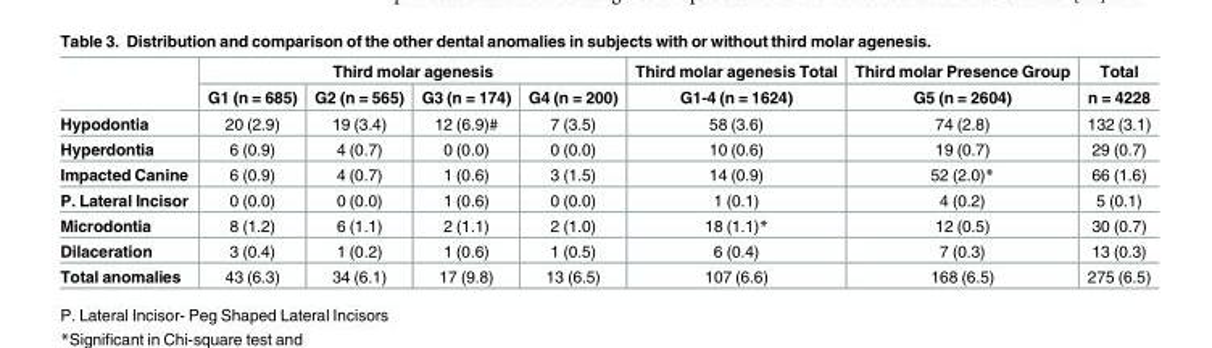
<table><thead><tr><td rowspan="2"></td><td colspan="4">Third molar agenesis</td><td rowspan="2">Third molar agenesis Total G1-4 (n = 1624)</td><td rowspan="2">Third molar Presence Group G5 (n = 2604)</td><td rowspan="2">Total n = 4228</td></tr><tr><td>G1 (n = 685)</td><td>G2 (n = 565)</td><td>G3 (n = 174)</td><td>G4 (n = 200)</td></tr></thead><tbody><tr><td>Hypodontia</td><td>20 (2.9)</td><td>19 (3.4)</td><td>12 (6.9)#</td><td>7 (3.5)</td><td>58 (3.6)</td><td>74 (2.8)</td><td>132 (3.1)</td></tr><tr><td>Hyperdontia</td><td>6 (0.9)</td><td>4 (0.7)</td><td>0 (0.0)</td><td>0 (0.0)</td><td>10 (0.6)</td><td>19 (0.7)</td><td>29 (0.7)</td></tr><tr><td>Impacted Canine</td><td>6 (0.9)</td><td>4 (0.7)</td><td>1 (0.6)</td><td>3 (1.5)</td><td>14 (0.9)</td><td>52 (2.0)*</td><td>66 (1.6)</td></tr><tr><td>P. Lateral Incisor</td><td>0 (0.0)</td><td>0 (0.0)</td><td>1 (0.6)</td><td>0 (0.0)</td><td>1 (0.1)</td><td>4 (0.2)</td><td>5 (0.1)</td></tr><tr><td>Microdontia</td><td>8 (1.2)</td><td>6 (1.1)</td><td>2 (1.1)</td><td>2 (1.0)</td><td>18 (1.1)*</td><td>12 (0.5)</td><td>30 (0.7)</td></tr><tr><td>Dilaceration</td><td>3 (0.4)</td><td>1 (0.2)</td><td>1 (0.6)</td><td>1 (0.5)</td><td>6 (0.4)</td><td>7 (0.3)</td><td>13 (0.3)</td></tr><tr><td>Total anomalies</td><td>43 (6.3)</td><td>34 (6.1)</td><td>17 (9.8)</td><td>13 (6.5)</td><td>107 (6.6)</td><td>168 (6.5)</td><td>275 (6.5)</td></tr></tbody></table>